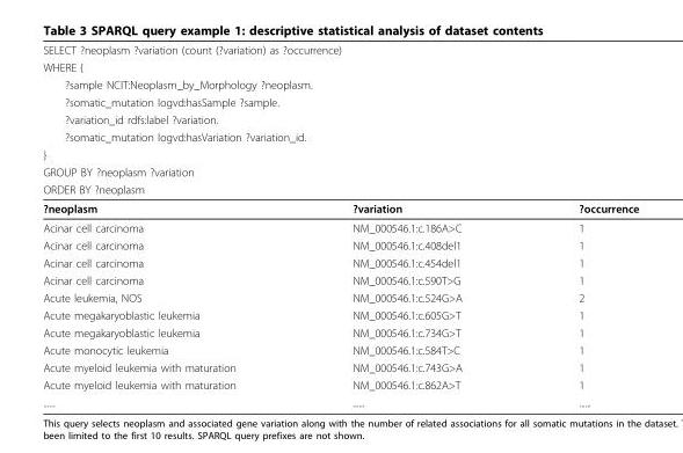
<table><thead><tr><td rowspan="9" colspan="3">SELECT ?neoplasm ?variation (count (?variation) as ?occurrence) WHERE { ?sample NCIT:Neoplasm_by_Morphology ?neoplasm. ?somatic_mutation logvd:hasSample ?sample. ?variation_id rdfs:label ?variation. ?somatic_mutation logvd:hasVariation ?variation_id. } GROUP BY ?neoplasm ?variation ORDER BY ?neoplasm</td></tr><tr></tr><tr></tr><tr></tr><tr></tr><tr></tr><tr></tr><tr></tr><tr></tr><tr><td>?neoplasm</td><td>?variation</td><td>?occurrence</td></tr></thead><tbody><tr><td>Acinar cell carcinoma</td><td>NM_000546.1:c.186A&gt;C</td><td>1</td></tr><tr><td>Acinar cell carcinoma</td><td>NM_000546.1:c.408del1</td><td>1</td></tr><tr><td>Acinar cell carcinoma</td><td>NM_000546.1:c.454del1</td><td>1</td></tr><tr><td>Acinar cell carcinoma</td><td>NM_000546.1:c.590T&gt;G</td><td>1</td></tr><tr><td>Acute leukemia, NOS</td><td>NM_000546.1:c.524G&gt;A</td><td>2</td></tr><tr><td>Acute megakaryoblastic leukemia</td><td>NM_000546.1:c.605G&gt;T</td><td>1</td></tr><tr><td>Acute megakaryoblastic leukemia</td><td>NM_000546.1:c.734G&gt;T</td><td>1</td></tr><tr><td>Acute monocytic leukemia</td><td>NM_000546.1:c.584T&gt;C</td><td>1</td></tr><tr><td>Acute myeloid leukemia with maturation</td><td>NM_000546.1:c.743G&gt;A</td><td>1</td></tr><tr><td>Acute myeloid leukemia with maturation</td><td>NM_000546.1:c.862A&gt;T</td><td>1</td></tr><tr><td>......</td><td>......</td><td>......</td></tr></tbody></table>